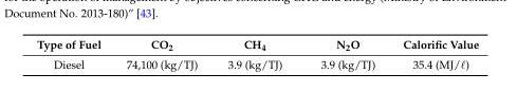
<table><thead><tr><td>Type of Fuel</td><td>CO<sub>2</sub></td><td>CH<sub>4</sub></td><td>N<sub>2</sub>O</td><td>Calorific Value</td></tr></thead><tbody><tr><td>Diesel</td><td>74,100 (kg/TJ)</td><td>3.9 (kg/TJ)</td><td>3.9 (kg/TJ)</td><td>35.4 (MJ/ℓ)</td></tr></tbody></table>